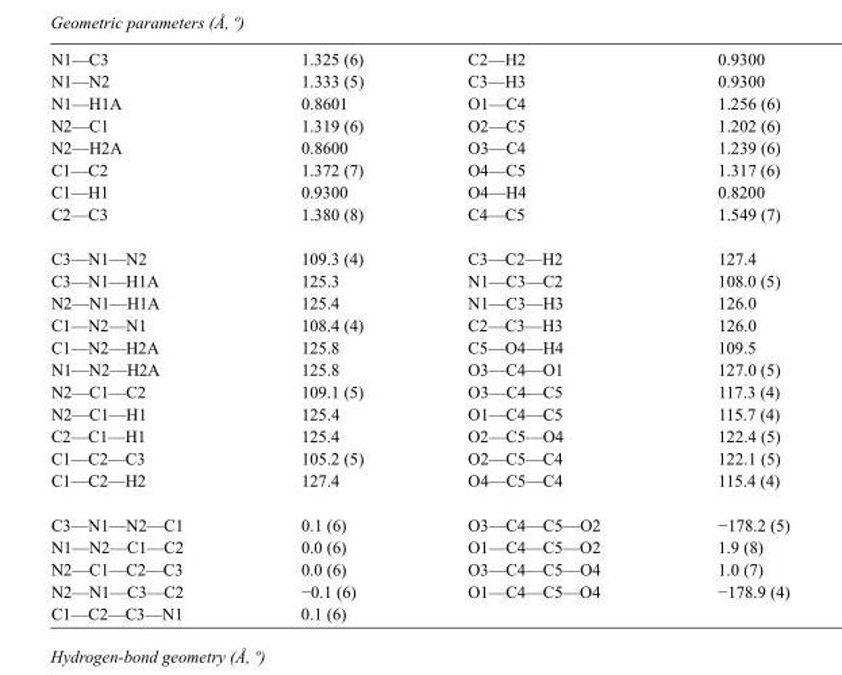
<table><tbody><tr><td>N1—C3</td><td>1.325 (6)</td><td>C2—H2</td><td>0.9300</td></tr><tr><td>N1—N2</td><td>1.333 (5)</td><td>C3—H3</td><td>0.9300</td></tr><tr><td>N1—H1A</td><td>0.8601</td><td>O1—C4</td><td>1.256 (6)</td></tr><tr><td>N2—C1</td><td>1.319 (6)</td><td>O2—C5</td><td>1.202 (6)</td></tr><tr><td>N2—H2A</td><td>0.8600</td><td>O3—C4</td><td>1.239 (6)</td></tr><tr><td>C1—C2</td><td>1.372 (7)</td><td>O4—C5</td><td>1.317 (6)</td></tr><tr><td>C1—H1</td><td>0.9300</td><td>O4—H4</td><td>0.8200</td></tr><tr><td>C2—C3</td><td>1.380 (8)</td><td>C4—C5</td><td>1.549 (7)</td></tr><tr><td>C3—N1—N2</td><td>109.3 (4)</td><td>C3—C2—H2</td><td>127.4</td></tr><tr><td>C3—N1—H1A</td><td>125.3</td><td>N1—C3—C2</td><td>108.0 (5)</td></tr><tr><td>N2—N1—H1A</td><td>125.4</td><td>N1—C3—H3</td><td>126.0</td></tr><tr><td>C1—N2—N1</td><td>108.4 (4)</td><td>C2—C3—H3</td><td>126.0</td></tr><tr><td>C1—N2—H2A</td><td>125.8</td><td>C5—O4—H4</td><td>109.5</td></tr><tr><td>N1—N2—H2A</td><td>125.8</td><td>O3—C4—O1</td><td>127.0 (5)</td></tr><tr><td>N2—C1—C2</td><td>109.1 (5)</td><td>O3—C4—C5</td><td>117.3 (4)</td></tr><tr><td>N2—C1—H1</td><td>125.4</td><td>O1—C4—C5</td><td>115.7 (4)</td></tr><tr><td>C2—C1—H1</td><td>125.4</td><td>O2—C5—O4</td><td>122.4 (5)</td></tr><tr><td>C1—C2—C3</td><td>105.2 (5)</td><td>O2—C5—C4</td><td>122.1 (5)</td></tr><tr><td>C1—C2—H2</td><td>127.4</td><td>O4—C5—C4</td><td>115.4 (4)</td></tr><tr><td>C3—N1—N2—C1</td><td>0.1 (6)</td><td>O3—C4—C5—O2</td><td>−178.2 (5)</td></tr><tr><td>N1—N2—C1—C2</td><td>0.0 (6)</td><td>O1—C4—C5—O2</td><td>1.9 (8)</td></tr><tr><td>N2—C1—C2—C3</td><td>0.0 (6)</td><td>O3—C4—C5—O4</td><td>1.0 (7)</td></tr><tr><td>N2—N1—C3—C2</td><td>−0.1 (6)</td><td>O1—C4—C5—O4</td><td>−178.9 (4)</td></tr><tr><td>C1—C2—C3—N1</td><td>0.1 (6)</td><td></td><td></td></tr></tbody></table>